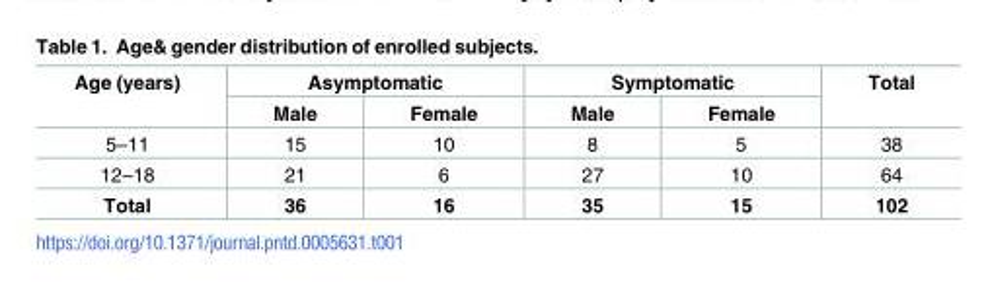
<table><thead><tr><td rowspan="2">Age (years)</td><td colspan="2">Asymptomatic</td><td colspan="2">Symptomatic</td><td rowspan="2">Total</td></tr><tr><td>Male</td><td>Female</td><td>Male</td><td>Female</td></tr></thead><tbody><tr><td>5–11</td><td>15</td><td>10</td><td>8</td><td>5</td><td>38</td></tr><tr><td>12–18</td><td>21</td><td>6</td><td>27</td><td>10</td><td>64</td></tr><tr><td>Total</td><td>36</td><td>16</td><td>35</td><td>15</td><td>102</td></tr></tbody></table>